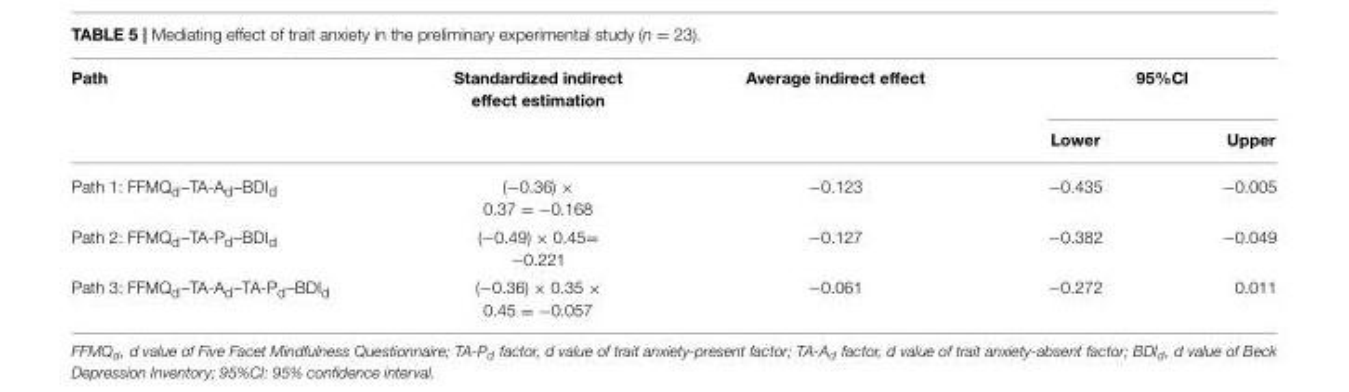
<table><thead><tr><td rowspan="2">Path</td><td rowspan="2">Standardized indirect effect estimation</td><td rowspan="2">Average indirect effect</td><td colspan="2">95%CI</td></tr><tr><td>Lower</td><td>Upper</td></tr></thead><tbody><tr><td>Path 1: FFMQ<sub>d</sub>–TA-A<sub>d</sub>–BDI<sub>d</sub></td><td>(−0.36) × 0.37 = −0.168</td><td>−0.123</td><td>−0.435</td><td>−0.005</td></tr><tr><td>Path 2: FFMQ<sub>d</sub>–TA-P<sub>d</sub>–BDI<sub>d</sub></td><td>(−0.49) × 0.45= −0.221</td><td>−0.127</td><td>−0.382</td><td>−0.049</td></tr><tr><td>Path 3: FFMQ<sub>d</sub>–TA-A<sub>d</sub>–TA-P<sub>d</sub>–BDI<sub>d</sub></td><td>(−0.36) × 0.35 × 0.45 = −0.057</td><td>−0.061</td><td>−0.272</td><td>0.011</td></tr></tbody></table>